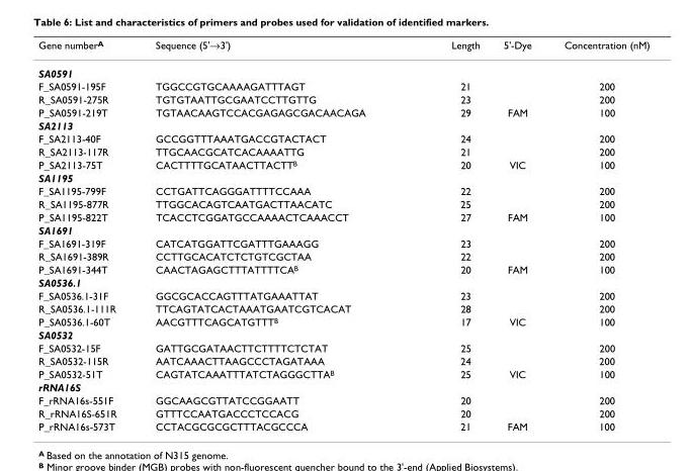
<table><thead><tr><td>Gene numberA</td><td>Sequence (5&#x27;→3&#x27;)</td><td>Length</td><td>5&#x27;-Dye</td><td>Concentration (nM)</td></tr></thead><tbody><tr><td colspan="5">SA0591</td></tr><tr><td>F_SA0591-195F</td><td>TGGCCGTGCAAAAGATTTAGT</td><td>21</td><td></td><td>200</td></tr><tr><td>R_SA0591-275R</td><td>TGTGTAATTGCGAATCCTTGTTG</td><td>23</td><td></td><td>200</td></tr><tr><td>P_SA0591-219T</td><td>TGTAACAAGTCCACGAGAGCGACAACAGA</td><td>29</td><td>FAM</td><td>100</td></tr><tr><td colspan="5">SA2113</td></tr><tr><td>F_SA2113-40F</td><td>GCCGGTTTAAATGACCGTACTACT</td><td>24</td><td></td><td>200</td></tr><tr><td>R_SA2113-117R</td><td>TTGCAACGCATCACAAAATTG</td><td>21</td><td></td><td>200</td></tr><tr><td>P_SA2113-75T</td><td>CACTTTTGCATAACTTACTTB</td><td>20</td><td>VIC</td><td>100</td></tr><tr><td colspan="5">SA1195</td></tr><tr><td>F_SA1195-799F</td><td>CCTGATTCAGGGATTTTCCAAA</td><td>22</td><td></td><td>200</td></tr><tr><td>R_SA1195-877R</td><td>TTGGCACAGTCAATGACTTAACATC</td><td>25</td><td></td><td>200</td></tr><tr><td>P_SA1195-822T</td><td>TCACCTCGGATGCCAAAACTCAAACCT</td><td>27</td><td>FAM</td><td>100</td></tr><tr><td colspan="5">SA1691</td></tr><tr><td>F_SA1691-319F</td><td>CATCATGGATTCGATTTGAAAGG</td><td>23</td><td></td><td>200</td></tr><tr><td>R_SA1691-389R</td><td>CCTTGCACATCTCTGTCGCTAA</td><td>22</td><td></td><td>200</td></tr><tr><td>P_SA1691-344T</td><td>CAACTAGAGCTTTATTTTCAB</td><td>20</td><td>FAM</td><td>100</td></tr><tr><td colspan="5">SA0536.1</td></tr><tr><td>F_SA0536.1-31F</td><td>GGCGCACCAGTTTATGAAATTAT</td><td>23</td><td></td><td>200</td></tr><tr><td>R_SA0536.1-111R</td><td>TTCAGTATCACTAAATGAATCGTCACAT</td><td>28</td><td></td><td>200</td></tr><tr><td>P_SA0536.1-60T</td><td>AACGTTTCAGCATGTTTB</td><td>17</td><td>VIC</td><td>100</td></tr><tr><td colspan="5">SA0532</td></tr><tr><td>F_SA0532-15F</td><td>GATTGCGATAACTTCTTTTCTCTAT</td><td>25</td><td></td><td>200</td></tr><tr><td>R_SA0532-115R</td><td>AATCAAACTTAAGCCCTAGATAAA</td><td>24</td><td></td><td>200</td></tr><tr><td>P_SA0532-51T</td><td>CAGTATCAAATTTATCTAGGGCTTAB</td><td>25</td><td>VIC</td><td>100</td></tr><tr><td colspan="5">rRNA16S</td></tr><tr><td>F_rRNA16s-551F</td><td>GGCAAGCGTTATCCGGAATT</td><td>20</td><td></td><td>200</td></tr><tr><td>R_rRNA16S-651R</td><td>GTTTCCAATGACCCTCCACG</td><td>20</td><td></td><td>200</td></tr><tr><td>P_rRNA16s-573T</td><td>CCTACGCGCGCTTTACGCCCA</td><td>21</td><td>FAM</td><td>100</td></tr></tbody></table>